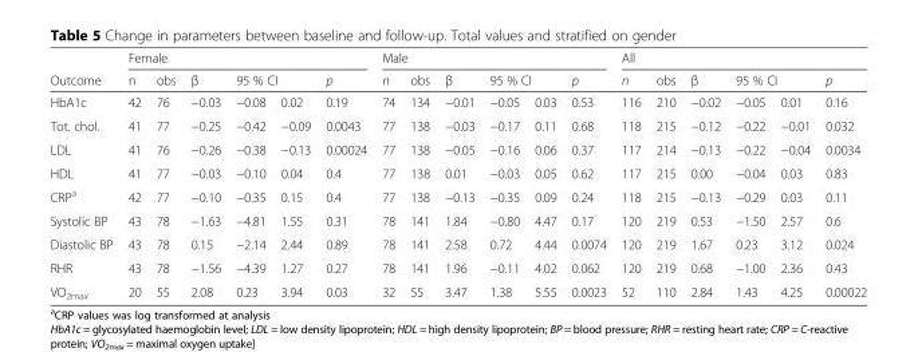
<table><thead><tr><td rowspan="3">Outcome HbA1c</td><td colspan="6">Female</td><td colspan="6">Male</td><td colspan="6">All</td></tr><tr><td rowspan="2">n 42</td><td rowspan="2">obs 76</td><td rowspan="2">β −0.03</td><td colspan="2">95 % CI</td><td rowspan="2">p 0.19</td><td rowspan="2">n 74</td><td rowspan="2">obs 134</td><td rowspan="2">β −0.01</td><td colspan="2">95 % CI</td><td rowspan="2">p 0.53</td><td rowspan="2">n 116</td><td rowspan="2">obs 210</td><td rowspan="2">β −0.02</td><td colspan="2">95 % CI</td><td rowspan="2">p 0.16</td></tr><tr><td>−0.08</td><td>0.02</td><td>−0.05</td><td>0.03</td><td>−0.05</td><td>0.01</td></tr></thead><tbody><tr><td>Tot. chol.</td><td>41</td><td>77</td><td>−0.25</td><td>−0.42</td><td>−0.09</td><td>0.0043</td><td>77</td><td>138</td><td>−0.03</td><td>−0.17</td><td>0.11</td><td>0.68</td><td>118</td><td>215</td><td>−0.12</td><td>−0.22</td><td>−0.01</td><td>0.032</td></tr><tr><td>LDL</td><td>41</td><td>76</td><td>−0.26</td><td>−0.38</td><td>−0.13</td><td>0.00024</td><td>77</td><td>138</td><td>−0.05</td><td>−0.16</td><td>0.06</td><td>0.37</td><td>117</td><td>214</td><td>−0.13</td><td>−0.22</td><td>−0.04</td><td>0.0034</td></tr><tr><td>HDL</td><td>41</td><td>77</td><td>−0.03</td><td>−0.10</td><td>0.04</td><td>0.4</td><td>77</td><td>138</td><td>0.01</td><td>−0.03</td><td>0.05</td><td>0.62</td><td>117</td><td>215</td><td>0.00</td><td>−0.04</td><td>0.03</td><td>0.83</td></tr><tr><td>CRP<sup>a</sup></td><td>42</td><td>77</td><td>−0.10</td><td>−0.35</td><td>0.15</td><td>0.4</td><td>77</td><td>138</td><td>−0.13</td><td>−0.35</td><td>0.09</td><td>0.24</td><td>118</td><td>215</td><td>−0.13</td><td>−0.29</td><td>0.03</td><td>0.11</td></tr><tr><td>Systolic BP</td><td>43</td><td>78</td><td>−1.63</td><td>−4.81</td><td>1.55</td><td>0.31</td><td>78</td><td>141</td><td>1.84</td><td>−0.80</td><td>4.47</td><td>0.17</td><td>120</td><td>219</td><td>0.53</td><td>−1.50</td><td>2.57</td><td>0.6</td></tr><tr><td>Diastolic BP</td><td>43</td><td>78</td><td>0.15</td><td>−2.14</td><td>2.44</td><td>0.89</td><td>78</td><td>141</td><td>2.58</td><td>0.72</td><td>4.44</td><td>0.0074</td><td>120</td><td>219</td><td>1.67</td><td>0.23</td><td>3.12</td><td>0.024</td></tr><tr><td>RHR</td><td>43</td><td>78</td><td>−1.56</td><td>−4.39</td><td>1.27</td><td>0.27</td><td>78</td><td>141</td><td>1.96</td><td>−0.11</td><td>4.02</td><td>0.062</td><td>120</td><td>219</td><td>0.68</td><td>−1.00</td><td>2.36</td><td>0.43</td></tr><tr><td>VO<sub>2max</sub></td><td>20</td><td>55</td><td>2.08</td><td>0.23</td><td>3.94</td><td>0.03</td><td>32</td><td>55</td><td>3.47</td><td>1.38</td><td>5.55</td><td>0.0023</td><td>52</td><td>110</td><td>2.84</td><td>1.43</td><td>4.25</td><td>0.00022</td></tr></tbody></table>